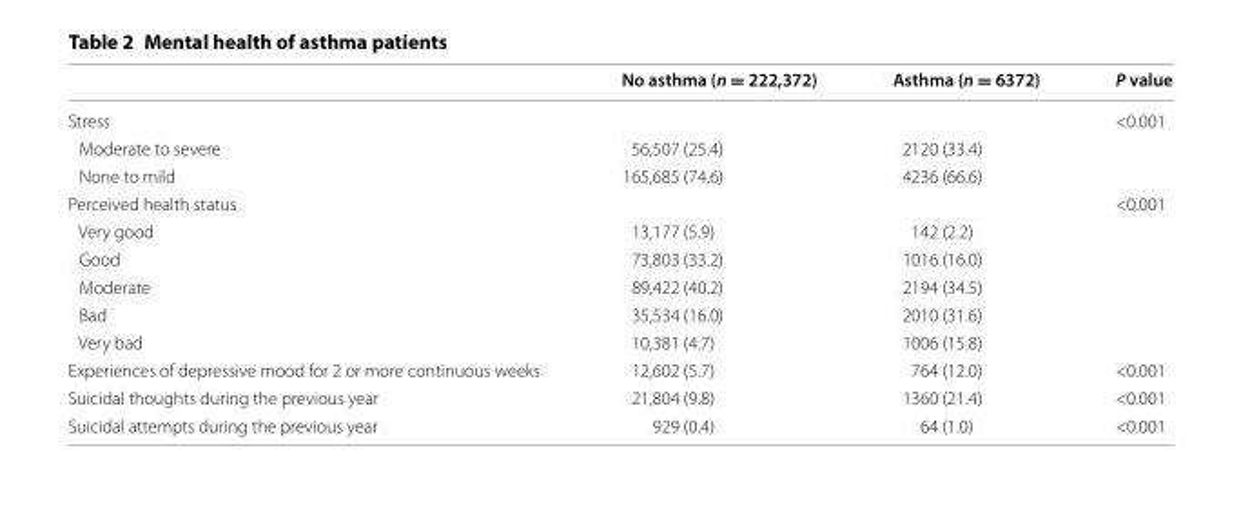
<table><thead><tr><td></td><td>No asthma (n = 222,372)</td><td>Asthma (n = 6372)</td><td>P value</td></tr></thead><tbody><tr><td>Stress</td><td></td><td></td><td>&lt;0.001</td></tr><tr><td>Moderate to severe</td><td>56,507 (25.4)</td><td>2120 (33.4)</td><td></td></tr><tr><td>None to mild</td><td>165,685 (74.6)</td><td>4236 (66.6)</td><td></td></tr><tr><td>Perceived health status</td><td></td><td></td><td>&lt;0.001</td></tr><tr><td>Very good</td><td>13,177 (5.9)</td><td>142 (2.2)</td><td></td></tr><tr><td>Good</td><td>73,803 (33.2)</td><td>1016 (16.0)</td><td></td></tr><tr><td>Moderate</td><td>89,422 (40.2)</td><td>2194 (34.5)</td><td></td></tr><tr><td>Bad</td><td>35,534 (16.0)</td><td>2010 (31.6)</td><td></td></tr><tr><td>Very bad</td><td>10,381 (4.7)</td><td>1006 (15.8)</td><td></td></tr><tr><td>Experiences of depressive mood for 2 or more continuous weeks</td><td>12,602 (5.7)</td><td>764 (12.0)</td><td>&lt;0.001</td></tr><tr><td>Suicidal thoughts during the previous year</td><td>21,804 (9.8)</td><td>1360 (21.4)</td><td>&lt;0.001</td></tr><tr><td>Suicidal attempts during the previous year</td><td>929 (0.4)</td><td>64 (1.0)</td><td>&lt;0.001</td></tr></tbody></table>